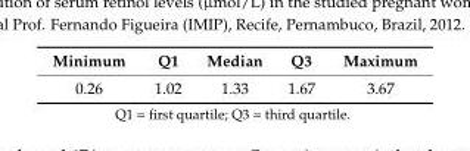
<table><thead><tr><td>Minimum</td><td>Q1</td><td>Median</td><td>Q3</td><td>Maximum</td></tr></thead><tbody><tr><td>0.26</td><td>1.02</td><td>1.33</td><td>1.67</td><td>3.67</td></tr></tbody></table>